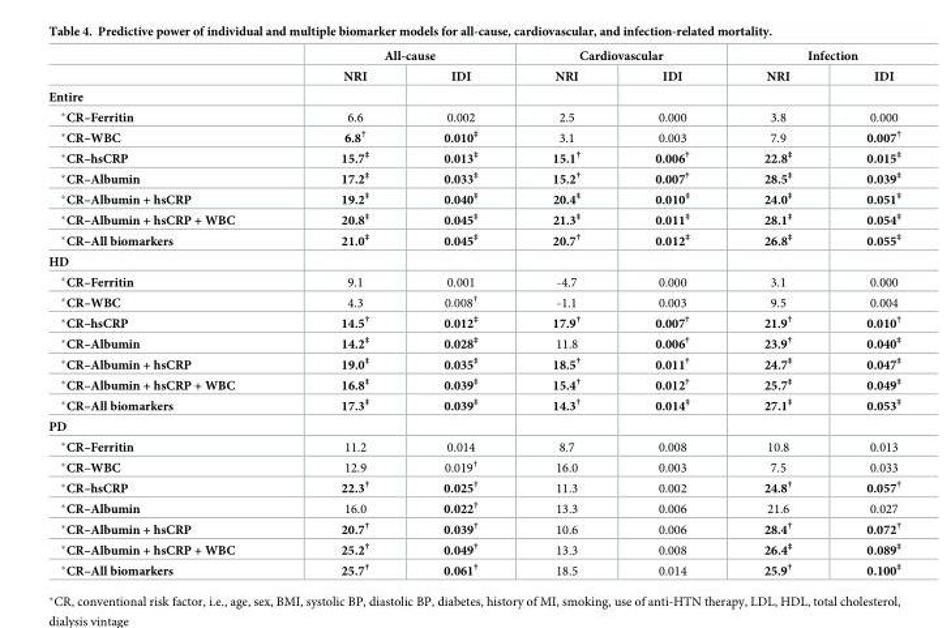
<table><thead><tr><td rowspan="2"></td><td colspan="2">All-cause</td><td colspan="2">Cardiovascular</td><td colspan="2">Infection</td></tr><tr><td>NRI</td><td>IDI</td><td>NRI</td><td>IDI</td><td>NRI</td><td>IDI</td></tr></thead><tbody><tr><td colspan="7">Entire</td></tr><tr><td>*CR–Ferritin</td><td>6.6</td><td>0.002</td><td>2.5</td><td>0.000</td><td>3.8</td><td>0.000</td></tr><tr><td>*CR–WBC</td><td>6.8<sup>†</sup></td><td>0.010<sup>‡</sup></td><td>3.1</td><td>0.003</td><td>7.9</td><td>0.007<sup>†</sup></td></tr><tr><td>*CR–hsCRP</td><td>15.7<sup>‡</sup></td><td>0.013<sup>‡</sup></td><td>15.1<sup>†</sup></td><td>0.006<sup>†</sup></td><td>22.8<sup>‡</sup></td><td>0.015<sup>‡</sup></td></tr><tr><td>*CR–Albumin</td><td>17.2<sup>‡</sup></td><td>0.033<sup>‡</sup></td><td>15.2<sup>†</sup></td><td>0.007<sup>†</sup></td><td>28.5<sup>‡</sup></td><td>0.039<sup>‡</sup></td></tr><tr><td>*CR–Albumin + hsCRP</td><td>19.2<sup>‡</sup></td><td>0.040<sup>‡</sup></td><td>20.4<sup>‡</sup></td><td>0.010<sup>‡</sup></td><td>24.0<sup>‡</sup></td><td>0.051<sup>‡</sup></td></tr><tr><td>*CR–Albumin + hsCRP + WBC</td><td>20.8<sup>‡</sup></td><td>0.045<sup>‡</sup></td><td>21.3<sup>‡</sup></td><td>0.011<sup>‡</sup></td><td>28.1<sup>‡</sup></td><td>0.054<sup>‡</sup></td></tr><tr><td>*CR–All biomarkers</td><td>21.0<sup>‡</sup></td><td>0.045<sup>‡</sup></td><td>20.7<sup>†</sup></td><td>0.012<sup>‡</sup></td><td>26.8<sup>‡</sup></td><td>0.055<sup>‡</sup></td></tr><tr><td colspan="7">HD</td></tr><tr><td>*CR–Ferritin</td><td>9.1</td><td>0.001</td><td>-4.7</td><td>0.000</td><td>3.1</td><td>0.000</td></tr><tr><td>*CR–WBC</td><td>4.3</td><td>0.008<sup>†</sup></td><td>-1.1</td><td>0.003</td><td>9.5</td><td>0.004</td></tr><tr><td>*CR–hsCRP</td><td>14.5<sup>†</sup></td><td>0.012<sup>‡</sup></td><td>17.9<sup>†</sup></td><td>0.007<sup>†</sup></td><td>21.9<sup>†</sup></td><td>0.010<sup>†</sup></td></tr><tr><td>*CR–Albumin</td><td>14.2<sup>‡</sup></td><td>0.028<sup>‡</sup></td><td>11.8</td><td>0.006<sup>†</sup></td><td>23.9<sup>†</sup></td><td>0.040<sup>‡</sup></td></tr><tr><td>*CR–Albumin + hsCRP</td><td>19.0<sup>‡</sup></td><td>0.035<sup>‡</sup></td><td>18.5<sup>†</sup></td><td>0.011<sup>†</sup></td><td>24.7<sup>‡</sup></td><td>0.047<sup>‡</sup></td></tr><tr><td>*CR–Albumin + hsCRP + WBC</td><td>16.8<sup>‡</sup></td><td>0.039<sup>‡</sup></td><td>15.4<sup>†</sup></td><td>0.012<sup>†</sup></td><td>25.7<sup>‡</sup></td><td>0.049<sup>‡</sup></td></tr><tr><td>*CR–All biomarkers</td><td>17.3<sup>‡</sup></td><td>0.039<sup>‡</sup></td><td>14.3<sup>†</sup></td><td>0.014<sup>‡</sup></td><td>27.1<sup>‡</sup></td><td>0.053<sup>‡</sup></td></tr><tr><td colspan="7">PD</td></tr><tr><td>*CR–Ferritin</td><td>11.2</td><td>0.014</td><td>8.7</td><td>0.008</td><td>10.8</td><td>0.013</td></tr><tr><td>*CR–WBC</td><td>12.9</td><td>0.019<sup>†</sup></td><td>16.0</td><td>0.003</td><td>7.5</td><td>0.033</td></tr><tr><td>*CR–hsCRP</td><td>22.3<sup>†</sup></td><td>0.025<sup>†</sup></td><td>11.3</td><td>0.002</td><td>24.8<sup>†</sup></td><td>0.057<sup>†</sup></td></tr><tr><td>*CR–Albumin</td><td>16.0</td><td>0.022<sup>†</sup></td><td>13.3</td><td>0.006</td><td>21.6</td><td>0.027</td></tr><tr><td>*CR–Albumin + hsCRP</td><td>20.7<sup>†</sup></td><td>0.039<sup>†</sup></td><td>10.6</td><td>0.006</td><td>28.4<sup>†</sup></td><td>0.072<sup>†</sup></td></tr><tr><td>*CR–Albumin + hsCRP + WBC</td><td>25.2<sup>†</sup></td><td>0.049<sup>†</sup></td><td>13.3</td><td>0.008</td><td>26.4<sup>‡</sup></td><td>0.089<sup>‡</sup></td></tr><tr><td>*CR–All biomarkers</td><td>25.7<sup>†</sup></td><td>0.061<sup>†</sup></td><td>18.5</td><td>0.014</td><td>25.9<sup>†</sup></td><td>0.100<sup>‡</sup></td></tr></tbody></table>